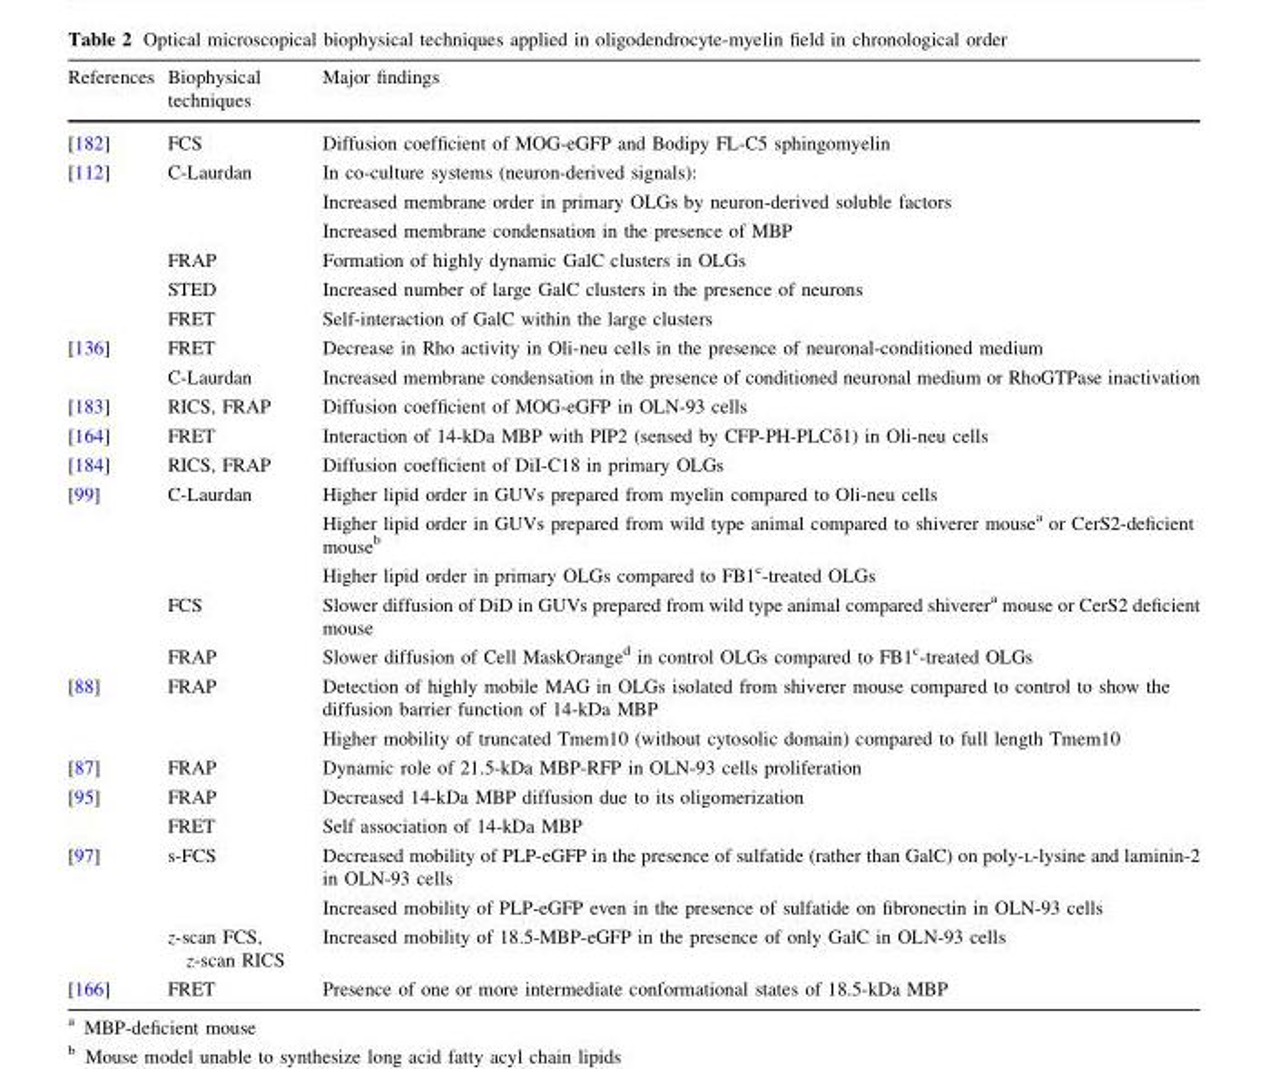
<table><thead><tr><td>References</td><td>Biophysical techniques</td><td>Major findings</td></tr></thead><tbody><tr><td>[182]</td><td>FCS</td><td>Diffusion coefficient of MOG-eGFP and Bodipy FL-C5 sphingomyelin</td></tr><tr><td rowspan="4">[112]</td><td>C-Laurdan</td><td>In co-culture systems (neuron-derived signals): Increased membrane order in primary OLGs by neuron-derived soluble factors Increased membrane condensation in the presence of MBP</td></tr><tr><td>FRAP</td><td>Formation of highly dynamic GalC clusters in OLGs</td></tr><tr><td>STED</td><td>Increased number of large GalC clusters in the presence of neurons</td></tr><tr><td>FRET</td><td>Self-interaction of GalC within the large clusters</td></tr><tr><td rowspan="2">[136]</td><td>FRET</td><td>Decrease in Rho activity in Oli-neu cells in the presence of neuronal-conditioned medium</td></tr><tr><td>C-Laurdan</td><td>Increased membrane condensation in the presence of conditioned neuronal medium or RhoGTPase inactivation</td></tr><tr><td>[183]</td><td>RICS, FRAP</td><td>Diffusion coefficient of MOG-eGFP in OLN-93 cells</td></tr><tr><td>[164]</td><td>FRET</td><td>Interaction of 14-kDa MBP with PIP2 (sensed by CFP-PH-PLCδ1) in Oli-neu cells</td></tr><tr><td>[184]</td><td>RICS, FRAP</td><td>Diffusion coefficient of DiI-C18 in primary OLGs</td></tr><tr><td rowspan="3">[99]</td><td>C-Laurdan</td><td>Higher lipid order in GUVs prepared from myelin compared to Oli-neu cells Higher lipid order in GUVs prepared from wild type animal compared to shiverer mouse<sup>a</sup> or CerS2-deficient mouse<sup>b</sup> Higher lipid order in primary OLGs compared to FB1<sup>c</sup>-treated OLGs</td></tr><tr><td>FCS</td><td>Slower diffusion of DiD in GUVs prepared from wild type animal compared shiverer<sup>a</sup> mouse or CerS2 deficient mouse</td></tr><tr><td>FRAP</td><td>Slower diffusion of Cell MaskOrange<sup>d</sup> in control OLGs compared to FB1<sup>c</sup>-treated OLGs</td></tr><tr><td>[88]</td><td>FRAP</td><td>Detection of highly mobile MAG in OLGs isolated from shiverer mouse compared to control to show the diffusion barrier function of 14-kDa MBP Higher mobility of truncated Tmem10 (without cytosolic domain) compared to full length Tmem10</td></tr><tr><td>[87]</td><td>FRAP</td><td>Dynamic role of 21.5-kDa MBP-RFP in OLN-93 cells proliferation</td></tr><tr><td rowspan="2">[95]</td><td>FRAP</td><td>Decreased 14-kDa MBP diffusion due to its oligomerization</td></tr><tr><td>FRET</td><td>Self association of 14-kDa MBP</td></tr><tr><td rowspan="3">[97]</td><td rowspan="2">s-FCS</td><td>Decreased mobility of PLP-eGFP in the presence of sulfatide (rather than GalC) on poly-L-lysine and laminin-2 in OLN-93 cells</td></tr><tr><td>Increased mobility of PLP-eGFP even in the presence of sulfatide on fibronectin in OLN-93 cells</td></tr><tr><td>z-scan FCS, z-scan RICS</td><td>Increased mobility of 18.5-MBP-eGFP in the presence of only GalC in OLN-93 cells</td></tr><tr><td>[166]</td><td>FRET</td><td>Presence of one or more intermediate conformational states of 18.5-kDa MBP</td></tr></tbody></table>